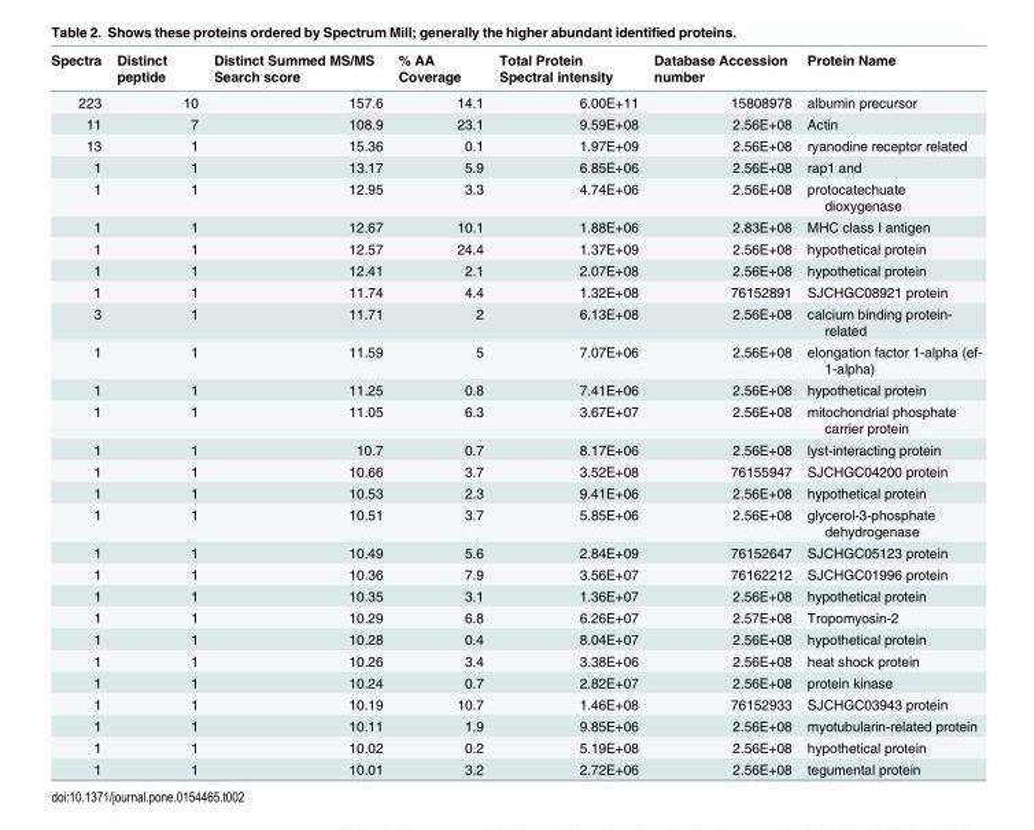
<table><thead><tr><td>Spectra</td><td>Distinct peptide</td><td>Distinct Summed MS/MS Search score</td><td>% AA Coverage</td><td>Total Protein Spectral intensity</td><td>Database Accession number</td><td>Protein Name</td></tr></thead><tbody><tr><td>223</td><td>10</td><td>157.6</td><td>14.1</td><td>6.00E+11</td><td>15808978</td><td>albumin precursor</td></tr><tr><td>11</td><td>7</td><td>108.9</td><td>23.1</td><td>9.59E+08</td><td>2.56E+08</td><td>Actin</td></tr><tr><td>13</td><td>1</td><td>15.36</td><td>0.1</td><td>1.97E+09</td><td>2.56E+08</td><td>ryanodine receptor related</td></tr><tr><td>1</td><td>1</td><td>13.17</td><td>5.9</td><td>6.85E+06</td><td>2.56E+08</td><td>rap1 and</td></tr><tr><td>1</td><td>1</td><td>12.95</td><td>3.3</td><td>4.74E+06</td><td>2.56E+08</td><td>protocatechuate dioxygenase</td></tr><tr><td>1</td><td>1</td><td>12.67</td><td>10.1</td><td>1.88E+06</td><td>2.83E+08</td><td>MHC class I antigen</td></tr><tr><td>1</td><td>1</td><td>12.57</td><td>24.4</td><td>1.37E+09</td><td>2.56E+08</td><td>hypothetical protein</td></tr><tr><td>1</td><td>1</td><td>12.41</td><td>2.1</td><td>2.07E+08</td><td>2.56E+08</td><td>hypothetical protein</td></tr><tr><td>1</td><td>1</td><td>11.74</td><td>4.4</td><td>1.32E+08</td><td>76152891</td><td>SJCHGC08921 protein</td></tr><tr><td>3</td><td>1</td><td>11.71</td><td>2</td><td>6.13E+08</td><td>2.56E+08</td><td>calcium binding protein- related</td></tr><tr><td>1</td><td>1</td><td>11.59</td><td>5</td><td>7.07E+06</td><td>2.56E+08</td><td>elongation factor 1-alpha (ef- 1-alpha)</td></tr><tr><td>1</td><td>1</td><td>11.25</td><td>0.8</td><td>7.41E+06</td><td>2.56E+08</td><td>hypothetical protein</td></tr><tr><td>1</td><td>1</td><td>11.05</td><td>6.3</td><td>3.67E+07</td><td>2.56E+08</td><td>mitochondrial phosphate carrier protein</td></tr><tr><td>1</td><td>1</td><td>10.7</td><td>0.7</td><td>8.17E+06</td><td>2.56E+08</td><td>lyst-interacting protein</td></tr><tr><td>1</td><td>1</td><td>10.66</td><td>3.7</td><td>3.52E+08</td><td>76155947</td><td>SJCHGC04200 protein</td></tr><tr><td>1</td><td>1</td><td>10.53</td><td>2.3</td><td>9.41E+06</td><td>2.56E+08</td><td>hypothetical protein</td></tr><tr><td>1</td><td>1</td><td>10.51</td><td>3.7</td><td>5.85E+06</td><td>2.56E+08</td><td>glycerol-3-phosphate dehydrogenase</td></tr><tr><td>1</td><td>1</td><td>10.49</td><td>5.6</td><td>2.84E+09</td><td>76152647</td><td>SJCHGC05123 protein</td></tr><tr><td>1</td><td>1</td><td>10.36</td><td>7.9</td><td>3.56E+07</td><td>76162212</td><td>SJCHGC01996 protein</td></tr><tr><td>1</td><td>1</td><td>10.35</td><td>3.1</td><td>1.36E+07</td><td>2.56E+08</td><td>hypothetical protein</td></tr><tr><td>1</td><td>1</td><td>10.29</td><td>6.8</td><td>6.26E+07</td><td>2.57E+08</td><td>Tropomyosin-2</td></tr><tr><td>1</td><td>1</td><td>10.28</td><td>0.4</td><td>8.04E+07</td><td>2.56E+08</td><td>hypothetical protein</td></tr><tr><td>1</td><td>1</td><td>10.26</td><td>3.4</td><td>3.38E+06</td><td>2.56E+08</td><td>heat shock protein</td></tr><tr><td>1</td><td>1</td><td>10.24</td><td>0.7</td><td>2.82E+07</td><td>2.56E+08</td><td>protein kinase</td></tr><tr><td>1</td><td>1</td><td>10.19</td><td>10.7</td><td>1.46E+08</td><td>76152933</td><td>SJCHGC03943 protein</td></tr><tr><td>1</td><td>1</td><td>10.11</td><td>1.9</td><td>9.85E+06</td><td>2.56E+08</td><td>myotubularin-related protein</td></tr><tr><td>1</td><td>1</td><td>10.02</td><td>0.2</td><td>5.19E+08</td><td>2.56E+08</td><td>hypothetical protein</td></tr><tr><td>1</td><td>1</td><td>10.01</td><td>3.2</td><td>2.72E+06</td><td>2.56E+08</td><td>tegumental protein</td></tr></tbody></table>